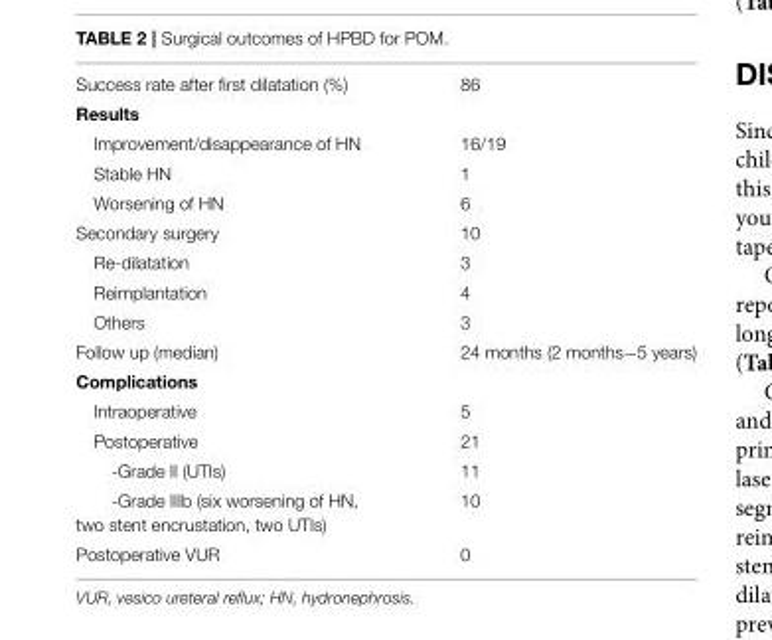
<table><tbody><tr><td>Success rate after first dilatation (%)</td><td>86</td></tr><tr><td colspan="2">Results</td></tr><tr><td>Improvement/disappearance of HN</td><td>16/19</td></tr><tr><td>Stable HN</td><td>1</td></tr><tr><td>Worsening of HN</td><td>6</td></tr><tr><td>Secondary surgery</td><td>10</td></tr><tr><td>Re-dilatation</td><td>3</td></tr><tr><td>Reimplantation</td><td>4</td></tr><tr><td>Others</td><td>3</td></tr><tr><td>Follow up (median)</td><td>24 months (2 months−5 years)</td></tr><tr><td colspan="2">Complications</td></tr><tr><td>Intraoperative</td><td>5</td></tr><tr><td>Postoperative</td><td>21</td></tr><tr><td>-Grade II (UTIs)</td><td>11</td></tr><tr><td>-Grade IIIb (six worsening of HN, two stent encrustation, two UTIs)</td><td>10</td></tr><tr><td>Postoperative VUR</td><td>0</td></tr></tbody></table>